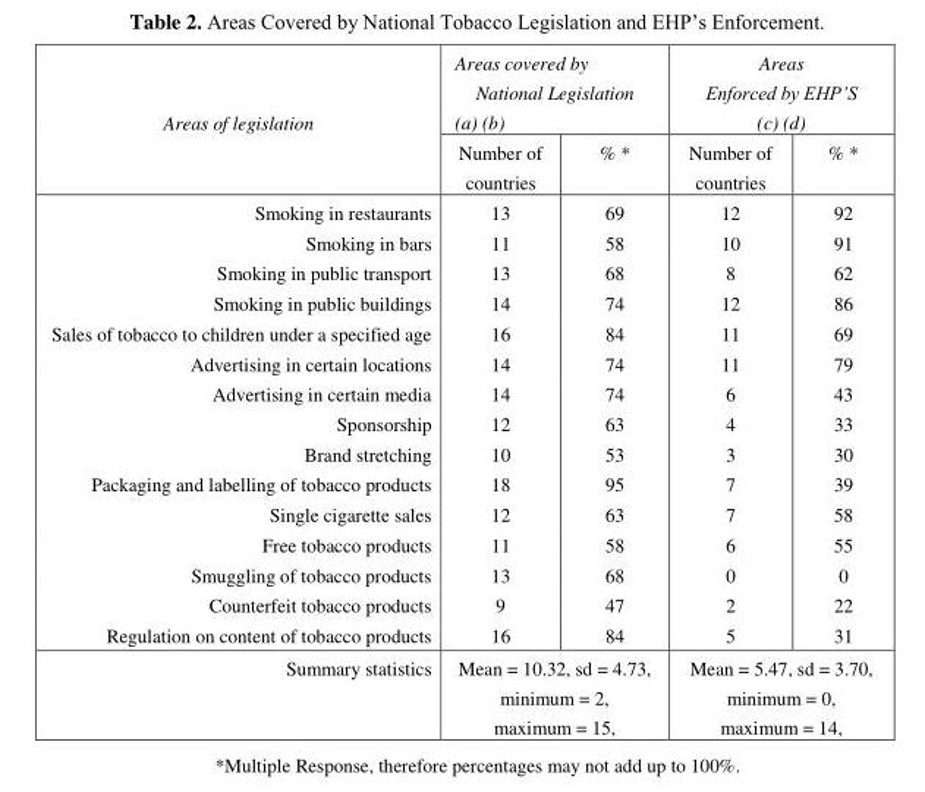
<table><thead><tr><td rowspan="2">Areas of legislation</td><td colspan="2">Areas covered by National Legislation (a) (b)</td><td colspan="2">Areas Enforced by EHP’S (c) (d)</td></tr><tr><td>Number of countries</td><td>% *</td><td>Number of countries</td><td>% *</td></tr></thead><tbody><tr><td>Smoking in restaurants</td><td>13</td><td>69</td><td>12</td><td>92</td></tr><tr><td>Smoking in bars</td><td>11</td><td>58</td><td>10</td><td>91</td></tr><tr><td>Smoking in public transport</td><td>13</td><td>68</td><td>8</td><td>62</td></tr><tr><td>Smoking in public buildings</td><td>14</td><td>74</td><td>12</td><td>86</td></tr><tr><td>Sales of tobacco to children under a specified age</td><td>16</td><td>84</td><td>11</td><td>69</td></tr><tr><td>Advertising in certain locations</td><td>14</td><td>74</td><td>11</td><td>79</td></tr><tr><td>Advertising in certain media</td><td>14</td><td>74</td><td>6</td><td>43</td></tr><tr><td>Sponsorship</td><td>12</td><td>63</td><td>4</td><td>33</td></tr><tr><td>Brand stretching</td><td>10</td><td>53</td><td>3</td><td>30</td></tr><tr><td>Packaging and labelling of tobacco products</td><td>18</td><td>95</td><td>7</td><td>39</td></tr><tr><td>Single cigarette sales</td><td>12</td><td>63</td><td>7</td><td>58</td></tr><tr><td>Free tobacco products</td><td>11</td><td>58</td><td>6</td><td>55</td></tr><tr><td>Smuggling of tobacco products</td><td>13</td><td>68</td><td>0</td><td>0</td></tr><tr><td>Counterfeit tobacco products</td><td>9</td><td>47</td><td>2</td><td>22</td></tr><tr><td>Regulation on content of tobacco products</td><td>16</td><td>84</td><td>5</td><td>31</td></tr><tr><td>Summary statistics</td><td colspan="2">Mean = 10.32, sd = 4.73, minimum = 2, maximum = 15,</td><td colspan="2">Mean = 5.47, sd = 3.70, minimum = 0, maximum = 14,</td></tr></tbody></table>